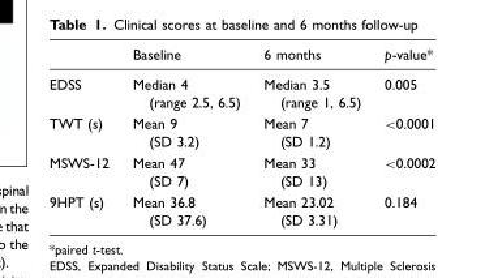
<table><thead><tr><td></td><td>Baseline</td><td>6 months</td><td>p-value*</td></tr></thead><tbody><tr><td>EDSS</td><td>Median 4 (range 2.5, 6.5)</td><td>Median 3.5 (range 1, 6.5)</td><td>0.005</td></tr><tr><td>TWT (s)</td><td>Mean 9 (SD 3.2)</td><td>Mean 7 (SD 1.2)</td><td>&lt;0.0001</td></tr><tr><td>MSWS-12</td><td>Mean 47 (SD 7)</td><td>Mean 33 (SD 13)</td><td>&lt;0.0002</td></tr><tr><td>9HPT (s)</td><td>Mean 36.8 (SD 37.6)</td><td>Mean 23.02 (SD 3.31)</td><td>0.184</td></tr></tbody></table>